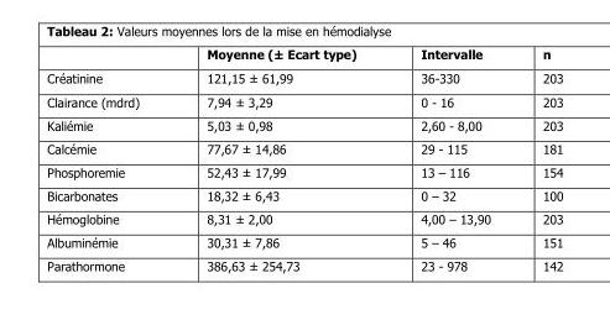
<table><thead><tr><td></td><td>Moyenne (± Ecart type)</td><td>Intervalle</td><td>n</td></tr></thead><tbody><tr><td>Créatinine</td><td>121,15 ± 61,99</td><td>36-330</td><td>203</td></tr><tr><td>Clairance (mdrd)</td><td>7,94 ± 3,29</td><td>0 - 16</td><td>203</td></tr><tr><td>Kaliémie</td><td>5,03 ± 0,98</td><td>2,60 - 8,00</td><td>203</td></tr><tr><td>Calcémie</td><td>77,67 ± 14,86</td><td>29 - 115</td><td>181</td></tr><tr><td>Phosphoremie</td><td>52,43 ± 17,99</td><td>13 – 116</td><td>154</td></tr><tr><td>Bicarbonates</td><td>18,32 ± 6,43</td><td>0 – 32</td><td>100</td></tr><tr><td>Hémoglobine</td><td>8,31 ± 2,00</td><td>4,00 – 13,90</td><td>203</td></tr><tr><td>Albuminémie</td><td>30,31 ± 7,86</td><td>5 – 46</td><td>151</td></tr><tr><td>Parathormone</td><td>386,63 ± 254,73</td><td>23 - 978</td><td>142</td></tr></tbody></table>